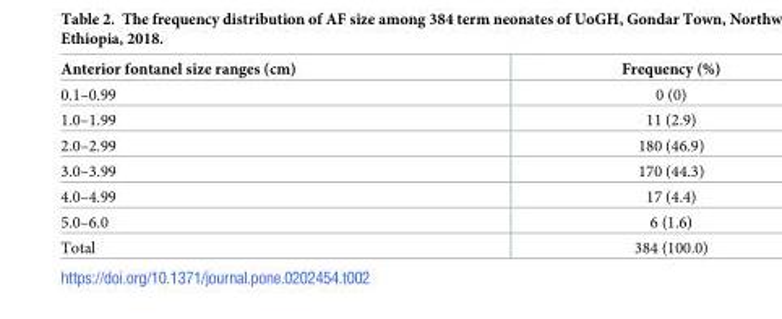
<table><thead><tr><td>Anterior fontanel size ranges (cm)</td><td>Frequency (%)</td></tr></thead><tbody><tr><td>0.1–0.99</td><td>0 (0)</td></tr><tr><td>1.0–1.99</td><td>11 (2.9)</td></tr><tr><td>2.0–2.99</td><td>180 (46.9)</td></tr><tr><td>3.0–3.99</td><td>170 (44.3)</td></tr><tr><td>4.0–4.99</td><td>17 (4.4)</td></tr><tr><td>5.0–6.0</td><td>6 (1.6)</td></tr><tr><td>Total</td><td>384 (100.0)</td></tr></tbody></table>